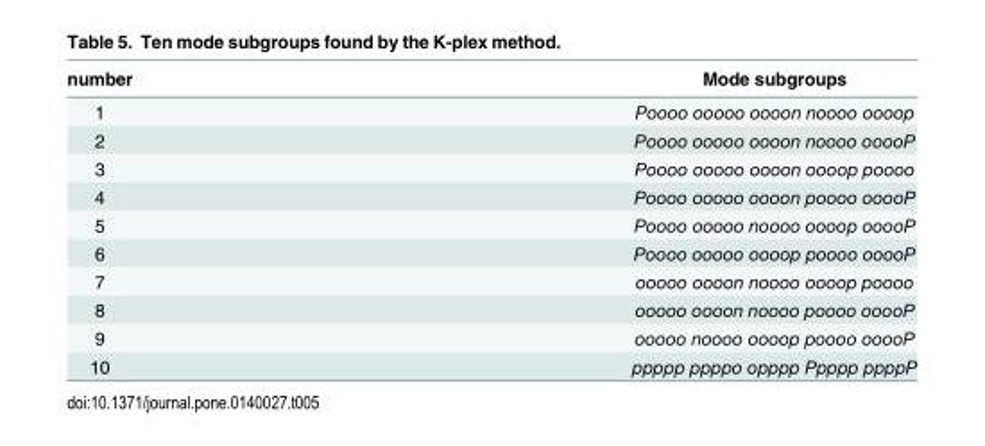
<table><thead><tr><td>number</td><td>Mode subgroups</td></tr></thead><tbody><tr><td>1</td><td>Poooo ooooo oooon noooo oooop</td></tr><tr><td>2</td><td>Poooo ooooo oooon noooo ooooP</td></tr><tr><td>3</td><td>Poooo ooooo oooon oooop poooo</td></tr><tr><td>4</td><td>Poooo ooooo oooon poooo ooooP</td></tr><tr><td>5</td><td>Poooo ooooo noooo oooop ooooP</td></tr><tr><td>6</td><td>Poooo ooooo oooop poooo ooooP</td></tr><tr><td>7</td><td>ooooo oooon noooo oooop poooo</td></tr><tr><td>8</td><td>ooooo oooon noooo poooo ooooP</td></tr><tr><td>9</td><td>ooooo noooo oooop poooo ooooP</td></tr><tr><td>10</td><td>ppppp ppppo opppp Ppppp ppppP</td></tr></tbody></table>